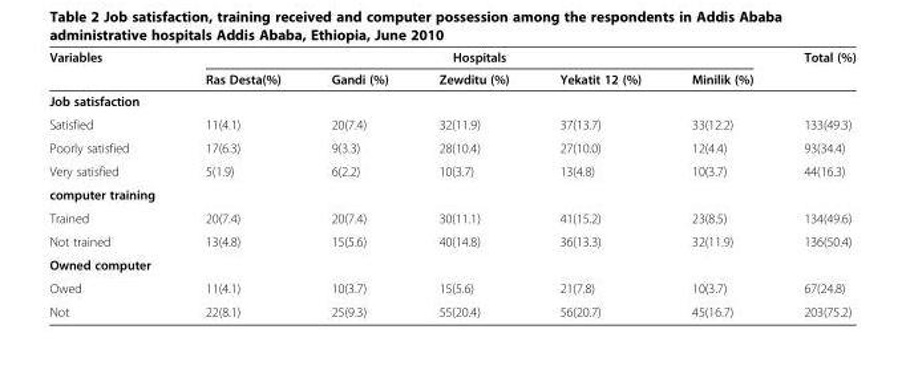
<table><thead><tr><td rowspan="2">Variables</td><td colspan="5">Hospitals</td><td rowspan="2">Total (%)</td></tr><tr><td>Ras Desta(%)</td><td>Gandi (%)</td><td>Zewditu (%)</td><td>Yekatit 12 (%)</td><td>Minilik (%)</td></tr></thead><tbody><tr><td colspan="7">Job satisfaction</td></tr><tr><td>Satisfied</td><td>11(4.1)</td><td>20(7.4)</td><td>32(11.9)</td><td>37(13.7)</td><td>33(12.2)</td><td>133(49.3)</td></tr><tr><td>Poorly satisfied</td><td>17(6.3)</td><td>9(3.3)</td><td>28(10.4)</td><td>27(10.0)</td><td>12(4.4)</td><td>93(34.4)</td></tr><tr><td>Very satisfied</td><td>5(1.9)</td><td>6(2.2)</td><td>10(3.7)</td><td>13(4.8)</td><td>10(3.7)</td><td>44(16.3)</td></tr><tr><td colspan="7">computer training</td></tr><tr><td>Trained</td><td>20(7.4)</td><td>20(7.4)</td><td>30(11.1)</td><td>41(15.2)</td><td>23(8.5)</td><td>134(49.6)</td></tr><tr><td>Not trained</td><td>13(4.8)</td><td>15(5.6)</td><td>40(14.8)</td><td>36(13.3)</td><td>32(11.9)</td><td>136(50.4)</td></tr><tr><td colspan="7">Owned computer</td></tr><tr><td>Owed</td><td>11(4.1)</td><td>10(3.7)</td><td>15(5.6)</td><td>21(7.8)</td><td>10(3.7)</td><td>67(24.8)</td></tr><tr><td>Not</td><td>22(8.1)</td><td>25(9.3)</td><td>55(20.4)</td><td>56(20.7)</td><td>45(16.7)</td><td>203(75.2)</td></tr></tbody></table>